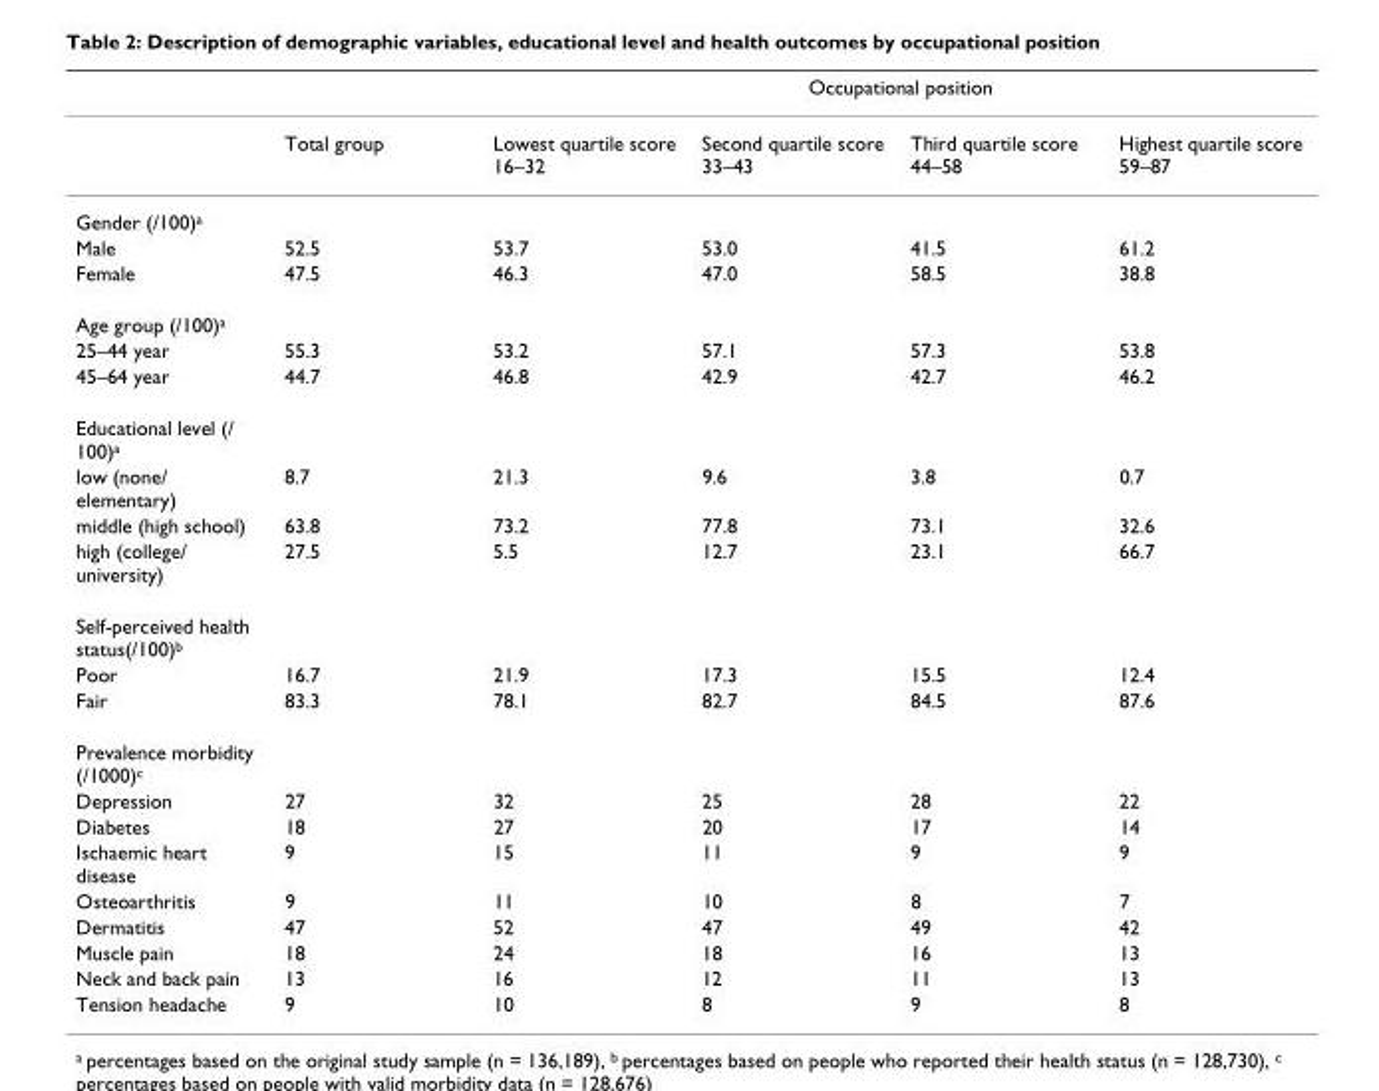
<table><thead><tr><td rowspan="2"></td><td rowspan="2">Total group</td><td colspan="4">Occupational position</td></tr><tr><td>Lowest quartile score 16–32</td><td>Second quartile score 33–43</td><td>Third quartile score 44–58</td><td>Highest quartile score 59–87</td></tr></thead><tbody><tr><td colspan="6">Gender (/100)<sup>a</sup></td></tr><tr><td>Male</td><td>52.5</td><td>53.7</td><td>53.0</td><td>41.5</td><td>61.2</td></tr><tr><td>Female</td><td>47.5</td><td>46.3</td><td>47.0</td><td>58.5</td><td>38.8</td></tr><tr><td colspan="6">Age group (/100)<sup>a</sup></td></tr><tr><td>25–44 year</td><td>55.3</td><td>53.2</td><td>57.1</td><td>57.3</td><td>53.8</td></tr><tr><td>45–64 year</td><td>44.7</td><td>46.8</td><td>42.9</td><td>42.7</td><td>46.2</td></tr><tr><td colspan="6">Educational level (/ 100)<sup>a</sup></td></tr><tr><td>low (none/ elementary)</td><td>8.7</td><td>21.3</td><td>9.6</td><td>3.8</td><td>0.7</td></tr><tr><td>middle (high school)</td><td>63.8</td><td>73.2</td><td>77.8</td><td>73.1</td><td>32.6</td></tr><tr><td>high (college/ university)</td><td>27.5</td><td>5.5</td><td>12.7</td><td>23.1</td><td>66.7</td></tr><tr><td colspan="6">Self-perceived health status(/100)<sup>b</sup></td></tr><tr><td>Poor</td><td>16.7</td><td>21.9</td><td>17.3</td><td>15.5</td><td>12.4</td></tr><tr><td>Fair</td><td>83.3</td><td>78.1</td><td>82.7</td><td>84.5</td><td>87.6</td></tr><tr><td colspan="6">Prevalence morbidity (/1000)<sup>c</sup></td></tr><tr><td>Depression</td><td>27</td><td>32</td><td>25</td><td>28</td><td>22</td></tr><tr><td>Diabetes</td><td>18</td><td>27</td><td>20</td><td>17</td><td>14</td></tr><tr><td>Ischaemic heart disease</td><td>9</td><td>15</td><td>11</td><td>9</td><td>9</td></tr><tr><td>Osteoarthritis</td><td>9</td><td>11</td><td>10</td><td>8</td><td>7</td></tr><tr><td>Dermatitis</td><td>47</td><td>52</td><td>47</td><td>49</td><td>42</td></tr><tr><td>Muscle pain</td><td>18</td><td>24</td><td>18</td><td>16</td><td>13</td></tr><tr><td>Neck and back pain</td><td>13</td><td>16</td><td>12</td><td>11</td><td>13</td></tr><tr><td>Tension headache</td><td>9</td><td>10</td><td>8</td><td>9</td><td>8</td></tr></tbody></table>